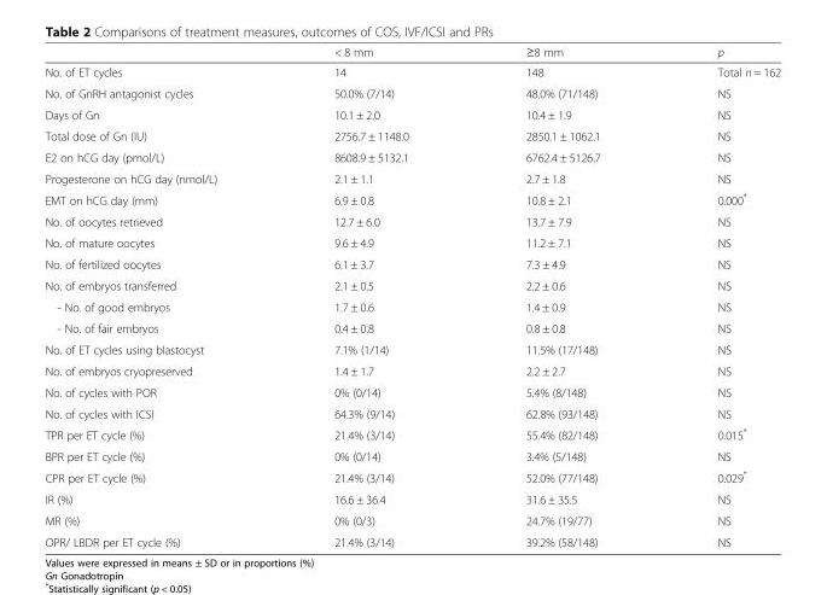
<table><thead><tr><td></td><td>&lt; 8 mm</td><td>≥8 mm</td><td>p</td></tr></thead><tbody><tr><td>No. of ET cycles</td><td>14</td><td>148</td><td>Total n = 162</td></tr><tr><td>No. of GnRH antagonist cycles</td><td>50.0% (7/14)</td><td>48.0% (71/148)</td><td>NS</td></tr><tr><td>Days of Gn</td><td>10.1 ± 2.0</td><td>10.4 ± 1.9</td><td>NS</td></tr><tr><td>Total dose of Gn (IU)</td><td>2756.7 ± 1148.0</td><td>2850.1 ± 1062.1</td><td>NS</td></tr><tr><td>E2 on hCG day (pmol/L)</td><td>8608.9 ± 5132.1</td><td>6762.4 ± 5126.7</td><td>NS</td></tr><tr><td>Progesterone on hCG day (nmol/L)</td><td>2.1 ± 1.1</td><td>2.7 ± 1.8</td><td>NS</td></tr><tr><td>EMT on hCG day (mm)</td><td>6.9 ± 0.8</td><td>10.8 ± 2.1</td><td>0.000*</td></tr><tr><td>No. of oocytes retrieved</td><td>12.7 ± 6.0</td><td>13.7 ± 7.9</td><td>NS</td></tr><tr><td>No. of mature oocytes</td><td>9.6 ± 4.9</td><td>11.2 ± 7.1</td><td>NS</td></tr><tr><td>No. of fertilized oocytes</td><td>6.1 ± 3.7</td><td>7.3 ± 4.9</td><td>NS</td></tr><tr><td>No. of embryos transferred</td><td>2.1 ± 0.5</td><td>2.2 ± 0.6</td><td>NS</td></tr><tr><td>- No. of good embryos</td><td>1.7 ± 0.6</td><td>1.4 ± 0.9</td><td>NS</td></tr><tr><td>- No. of fair embryos</td><td>0.4 ± 0.8</td><td>0.8 ± 0.8</td><td>NS</td></tr><tr><td>No. of ET cycles using blastocyst</td><td>7.1% (1/14)</td><td>11.5% (17/148)</td><td>NS</td></tr><tr><td>No. of embryos cryopreserved</td><td>1.4 ± 1.7</td><td>2.2 ± 2.7</td><td>NS</td></tr><tr><td>No. of cycles with POR</td><td>0% (0/14)</td><td>5.4% (8/148)</td><td>NS</td></tr><tr><td>No. of cycles with ICSI</td><td>64.3% (9/14)</td><td>62.8% (93/148)</td><td>NS</td></tr><tr><td>TPR per ET cycle (%)</td><td>21.4% (3/14)</td><td>55.4% (82/148)</td><td>0.015*</td></tr><tr><td>BPR per ET cycle (%)</td><td>0% (0/14)</td><td>3.4% (5/148)</td><td>NS</td></tr><tr><td>CPR per ET cycle (%)</td><td>21.4% (3/14)</td><td>52.0% (77/148)</td><td>0.029*</td></tr><tr><td>IR (%)</td><td>16.6 ± 36.4</td><td>31.6 ± 35.5</td><td>NS</td></tr><tr><td>MR (%)</td><td>0% (0/3)</td><td>24.7% (19/77)</td><td>NS</td></tr><tr><td>OPR/ LBDR per ET cycle (%)</td><td>21.4% (3/14)</td><td>39.2% (58/148)</td><td>NS</td></tr></tbody></table>